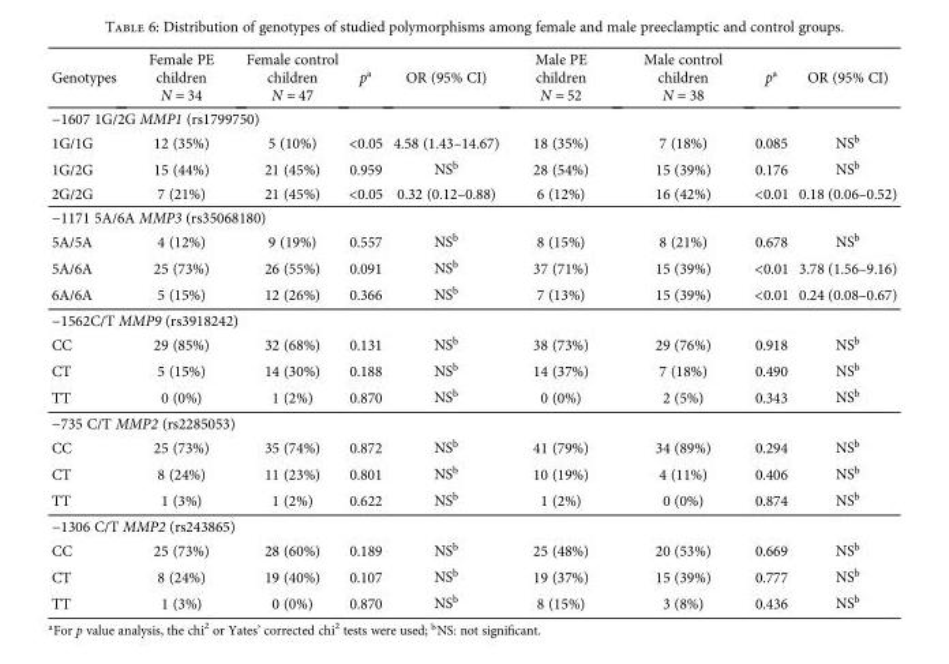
<table><thead><tr><td>Genotypes</td><td>Female PE children N = 34</td><td>Female control children N = 47</td><td>p<sup>a</sup></td><td>OR (95% CI)</td><td>Male PE children N = 52</td><td>Male control children N = 38</td><td>p<sup>a</sup></td><td>OR (95% CI)</td></tr></thead><tbody><tr><td colspan="9">−1607 1G/2G MMP1 (rs1799750)</td></tr><tr><td>1G/1G</td><td>12 (35%)</td><td>5 (10%)</td><td>&lt;0.05</td><td>4.58 (1.43–14.67)</td><td>18 (35%)</td><td>7 (18%)</td><td>0.085</td><td>NS<sup>b</sup></td></tr><tr><td>1G/2G</td><td>15 (44%)</td><td>21 (45%)</td><td>0.959</td><td>NS<sup>b</sup></td><td>28 (54%)</td><td>15 (39%)</td><td>0.176</td><td>NS<sup>b</sup></td></tr><tr><td>2G/2G</td><td>7 (21%)</td><td>21 (45%)</td><td>&lt;0.05</td><td>0.32 (0.12–0.88)</td><td>6 (12%)</td><td>16 (42%)</td><td>&lt;0.01</td><td>0.18 (0.06–0.52)</td></tr><tr><td colspan="9">−1171 5A/6A MMP3 (rs35068180)</td></tr><tr><td>5A/5A</td><td>4 (12%)</td><td>9 (19%)</td><td>0.557</td><td>NS<sup>b</sup></td><td>8 (15%)</td><td>8 (21%)</td><td>0.678</td><td>NS<sup>b</sup></td></tr><tr><td>5A/6A</td><td>25 (73%)</td><td>26 (55%)</td><td>0.091</td><td>NS<sup>b</sup></td><td>37 (71%)</td><td>15 (39%)</td><td>&lt;0.01</td><td>3.78 (1.56–9.16)</td></tr><tr><td>6A/6A</td><td>5 (15%)</td><td>12 (26%)</td><td>0.366</td><td>NS<sup>b</sup></td><td>7 (13%)</td><td>15 (39%)</td><td>&lt;0.01</td><td>0.24 (0.08–0.67)</td></tr><tr><td colspan="9">−1562C/T MMP9 (rs3918242)</td></tr><tr><td>CC</td><td>29 (85%)</td><td>32 (68%)</td><td>0.131</td><td>NS<sup>b</sup></td><td>38 (73%)</td><td>29 (76%)</td><td>0.918</td><td>NS<sup>b</sup></td></tr><tr><td>CT</td><td>5 (15%)</td><td>14 (30%)</td><td>0.188</td><td>NS<sup>b</sup></td><td>14 (37%)</td><td>7 (18%)</td><td>0.490</td><td>NS<sup>b</sup></td></tr><tr><td>TT</td><td>0 (0%)</td><td>1 (2%)</td><td>0.870</td><td>NS<sup>b</sup></td><td>0 (0%)</td><td>2 (5%)</td><td>0.343</td><td>NS<sup>b</sup></td></tr><tr><td colspan="9">−735 C/T MMP2 (rs2285053)</td></tr><tr><td>CC</td><td>25 (73%)</td><td>35 (74%)</td><td>0.872</td><td>NS<sup>b</sup></td><td>41 (79%)</td><td>34 (89%)</td><td>0.294</td><td>NS<sup>b</sup></td></tr><tr><td>CT</td><td>8 (24%)</td><td>11 (23%)</td><td>0.801</td><td>NS<sup>b</sup></td><td>10 (19%)</td><td>4 (11%)</td><td>0.406</td><td>NS<sup>b</sup></td></tr><tr><td>TT</td><td>1 (3%)</td><td>1 (2%)</td><td>0.622</td><td>NS<sup>b</sup></td><td>1 (2%)</td><td>0 (0%)</td><td>0.874</td><td>NS<sup>b</sup></td></tr><tr><td colspan="9">−1306 C/T MMP2 (rs243865)</td></tr><tr><td>CC</td><td>25 (73%)</td><td>28 (60%)</td><td>0.189</td><td>NS<sup>b</sup></td><td>25 (48%)</td><td>20 (53%)</td><td>0.669</td><td>NS<sup>b</sup></td></tr><tr><td>CT</td><td>8 (24%)</td><td>19 (40%)</td><td>0.107</td><td>NS<sup>b</sup></td><td>19 (37%)</td><td>15 (39%)</td><td>0.777</td><td>NS<sup>b</sup></td></tr><tr><td>TT</td><td>1 (3%)</td><td>0 (0%)</td><td>0.870</td><td>NS<sup>b</sup></td><td>8 (15%)</td><td>3 (8%)</td><td>0.436</td><td>NS<sup>b</sup></td></tr></tbody></table>